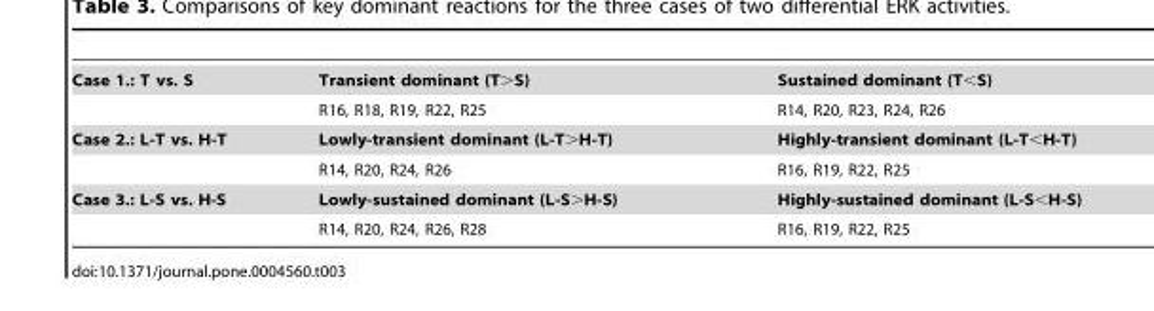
<table><tbody><tr><td rowspan="2">Case 1.: T vs. S</td><td>Transient dominant (T&gt;S)</td><td>Sustained dominant (T&lt;S)</td></tr><tr><td>R16, R18, R19, R22, R25</td><td>R14, R20, R23, R24, R26</td></tr><tr><td rowspan="2">Case 2.: L-T vs. H-T</td><td>Lowly-transient dominant (L-T&gt;H-T)</td><td>Highly-transient dominant (L-T&lt;H-T)</td></tr><tr><td>R14, R20, R24, R26</td><td>R16, R19, R22, R25</td></tr><tr><td rowspan="2">Case 3.: L-S vs. H-S</td><td>Lowly-sustained dominant (L-S&gt;H-S)</td><td>Highly-sustained dominant (L-S&lt;H-S)</td></tr><tr><td>R14, R20, R24, R26, R28</td><td>R16, R19, R22, R25</td></tr></tbody></table>